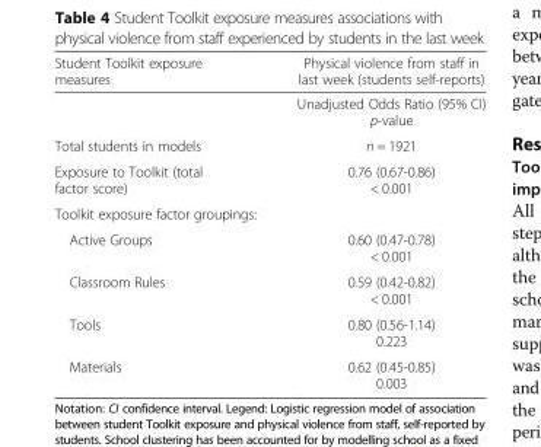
<table><thead><tr><td>Student Toolkit exposure measures</td><td>Physical violence from staff in last week (students self-reports)</td></tr></thead><tbody><tr><td></td><td>Unadjusted Odds Ratio (95% CI) p-value</td></tr><tr><td>Total students in models</td><td>n = 1921</td></tr><tr><td>Exposure to Toolkit (total factor score)</td><td>0.76 (0.67-0.86) &lt; 0.001</td></tr><tr><td colspan="2">Toolkit exposure factor groupings:</td></tr><tr><td>Active Groups</td><td>0.60 (0.47-0.78) &lt; 0.001</td></tr><tr><td>Classroom Rules</td><td>0.59 (0.42-0.82) &lt; 0.001</td></tr><tr><td>Tools</td><td>0.80 (0.56-1.14) 0.223</td></tr><tr><td>Materials</td><td>0.62 (0.45-0.85) 0.003</td></tr></tbody></table>